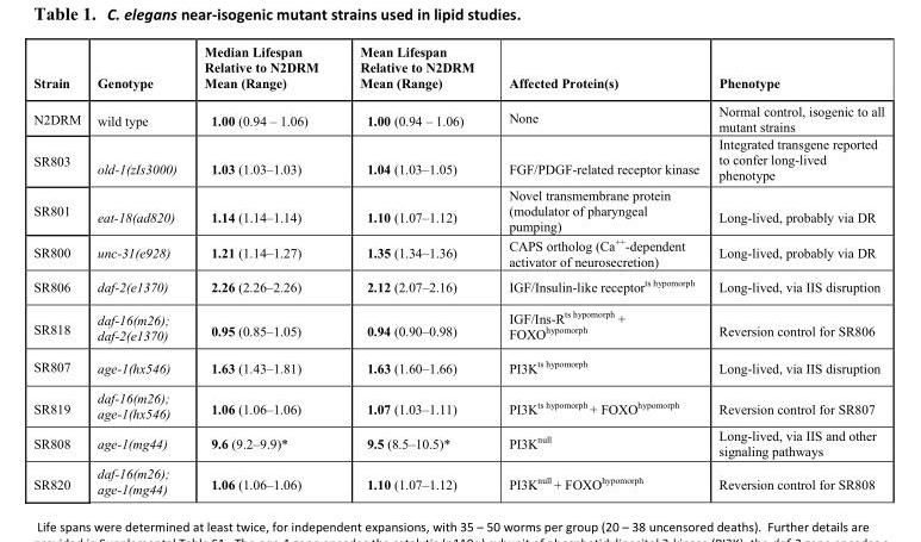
<table><thead><tr><td>Strain</td><td>Genotype</td><td>Median Lifespan Relative to N2DRM Mean (Range)</td><td>Mean Lifespan Relative to N2DRM Mean (Range)</td><td>Affected Protein(s)</td><td>Phenotype</td></tr></thead><tbody><tr><td>N2DRM</td><td>wild type</td><td>1.00 (0.94 – 1.06)</td><td>1.00 (0.94 – 1.06)</td><td>None</td><td>Normal control, isogenic to all mutant strains</td></tr><tr><td>SR803</td><td>old-1(zIs3000)</td><td>1.03 (1.03–1.03)</td><td>1.04 (1.03–1.05)</td><td>FGF/PDGF-related receptor kinase</td><td>Integrated transgene reported to confer long-lived phenotype</td></tr><tr><td>SR801</td><td>eat-18(ad820)</td><td>1.14 (1.14–1.14)</td><td>1.10 (1.07–1.12)</td><td>Novel transmembrane protein (modulator of pharyngeal pumping)</td><td>Long-lived, probably via DR</td></tr><tr><td>SR800</td><td>unc-31(e928)</td><td>1.21 (1.14–1.27)</td><td>1.35 (1.34–1.36)</td><td>CAPS ortholog (Ca<sup>++</sup>-dependent activator of neurosecretion)</td><td>Long-lived, probably via DR</td></tr><tr><td>SR806</td><td>daf-2(e1370)</td><td>2.26 (2.26–2.26)</td><td>2.12 (2.07–2.16)</td><td>IGF/Insulin-like receptor<sup>ts hypomorph</sup></td><td>Long-lived, via IIS disruption</td></tr><tr><td>SR818</td><td>daf-16(m26); daf-2(e1370)</td><td>0.95 (0.85–1.05)</td><td>0.94 (0.90–0.98)</td><td>IGF/Ins-R<sup>ts hypomorph</sup> + FOXO<sup>hypomorph</sup></td><td>Reversion control for SR806</td></tr><tr><td>SR807</td><td>age-1(hx546)</td><td>1.63 (1.43–1.81)</td><td>1.63 (1.60–1.66)</td><td>PI3K<sup>ts hypomorph</sup></td><td>Long-lived, via IIS disruption</td></tr><tr><td>SR819</td><td>daf-16(m26); age-1(hx546)</td><td>1.06 (1.06–1.06)</td><td>1.07 (1.03–1.11)</td><td>PI3K<sup>ts hypomorph</sup> + FOXO<sup>hypomorph</sup></td><td>Reversion control for SR807</td></tr><tr><td>SR808</td><td>age-1(mg44)</td><td>9.6 (9.2–9.9)*</td><td>9.5 (8.5–10.5)*</td><td>PI3K<sup>null</sup></td><td>Long-lived, via IIS and other signaling pathways</td></tr><tr><td>SR820</td><td>daf-16(m26); age-1(mg44)</td><td>1.06 (1.06–1.06)</td><td>1.10 (1.07–1.12)</td><td>PI3K<sup>null</sup> + FOXO<sup>hypomorph</sup></td><td>Reversion control for SR808</td></tr></tbody></table>